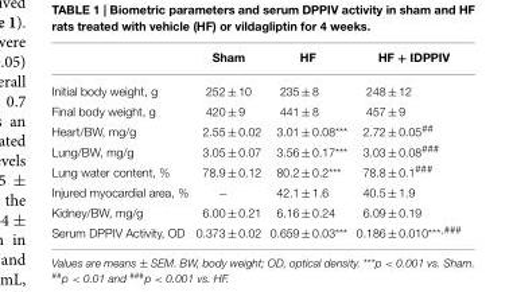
<table><thead><tr><td></td><td>Sham</td><td>HF</td><td>HF + IDPPIV</td></tr></thead><tbody><tr><td>Initial body weight, g</td><td>252 ± 10</td><td>235 ± 8</td><td>248 ± 12</td></tr><tr><td>Final body weight, g</td><td>420 ± 9</td><td>441 ± 8</td><td>457 ± 9</td></tr><tr><td>Heart/BW, mg/g</td><td>2.55 ± 0.02</td><td>3.01 ± 0.08***</td><td>2.72 ± 0.05<sup>##</sup></td></tr><tr><td>Lung/BW, mg/g</td><td>3.05 ± 0.07</td><td>3.56 ± 0.17***</td><td>3.03 ± 0.08<sup>###</sup></td></tr><tr><td>Lung water content, %</td><td>78.9 ± 0.12</td><td>80.2 ± 0.2***</td><td>78.8 ± 0.1<sup>###</sup></td></tr><tr><td>Injured myocardial area, %</td><td>−</td><td>42.1 ± 1.6</td><td>40.5 ± 1.9</td></tr><tr><td>Kidney/BW, mg/g</td><td>6.00 ± 0.21</td><td>6.16 ± 0.24</td><td>6.09 ± 0.19</td></tr><tr><td>Serum DPPIV Activity, OD</td><td>0.373 ± 0.02</td><td>0.659 ± 0.03***</td><td>0.186 ± 0.010***,<sup>###</sup></td></tr></tbody></table>